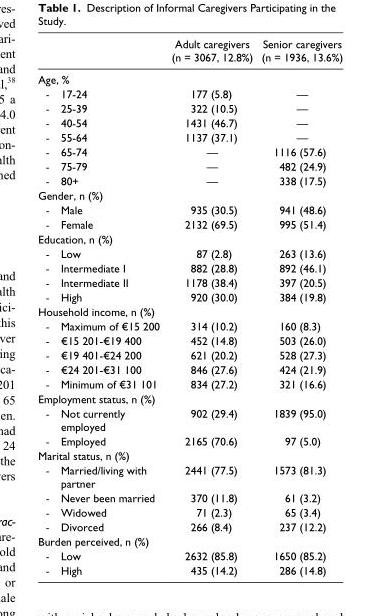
<table><thead><tr><td></td><td>Adult caregivers (n = 3067, 12.8%)</td><td>Senior caregivers (n = 1936, 13.6%)</td></tr></thead><tbody><tr><td colspan="3">Age, %</td></tr><tr><td>- 17-24</td><td>177 (5.8)</td><td>—</td></tr><tr><td>- 25-39</td><td>322 (10.5)</td><td>—</td></tr><tr><td>- 40-54</td><td>1431 (46.7)</td><td>—</td></tr><tr><td>- 55-64</td><td>1137 (37.1)</td><td>—</td></tr><tr><td>- 65-74</td><td>—</td><td>1116 (57.6)</td></tr><tr><td>- 75-79</td><td>—</td><td>482 (24.9)</td></tr><tr><td>- 80+</td><td>—</td><td>338 (17.5)</td></tr><tr><td colspan="3">Gender, n (%)</td></tr><tr><td>- Male</td><td>935 (30.5)</td><td>941 (48.6)</td></tr><tr><td>- Female</td><td>2132 (69.5)</td><td>995 (51.4)</td></tr><tr><td colspan="3">Education, n (%)</td></tr><tr><td>- Low</td><td>87 (2.8)</td><td>263 (13.6)</td></tr><tr><td>- Intermediate I</td><td>882 (28.8)</td><td>892 (46.1)</td></tr><tr><td>- Intermediate II</td><td>1178 (38.4)</td><td>397 (20.5)</td></tr><tr><td>- High</td><td>920 (30.0)</td><td>384 (19.8)</td></tr><tr><td colspan="3">Household income, n (%)</td></tr><tr><td>- Maximum of €15 200</td><td>314 (10.2)</td><td>160 (8.3)</td></tr><tr><td>- €15 201-€19 400</td><td>452 (14.8)</td><td>503 (26.0)</td></tr><tr><td>- €19 401-€24 200</td><td>621 (20.2)</td><td>528 (27.3)</td></tr><tr><td>- €24 201-€31 100</td><td>846 (27.6)</td><td>424 (21.9)</td></tr><tr><td>- Minimum of €31 101</td><td>834 (27.2)</td><td>321 (16.6)</td></tr><tr><td colspan="3">Employment status, n (%)</td></tr><tr><td>- Not currently employed</td><td>902 (29.4)</td><td>1839 (95.0)</td></tr><tr><td>- Employed</td><td>2165 (70.6)</td><td>97 (5.0)</td></tr><tr><td colspan="3">Marital status, n (%)</td></tr><tr><td>- Married/living with partner</td><td>2441 (77.5)</td><td>1573 (81.3)</td></tr><tr><td>- Never been married</td><td>370 (11.8)</td><td>61 (3.2)</td></tr><tr><td>- Widowed</td><td>71 (2.3)</td><td>65 (3.4)</td></tr><tr><td>- Divorced</td><td>266 (8.4)</td><td>237 (12.2)</td></tr><tr><td colspan="3">Burden perceived, n (%)</td></tr><tr><td>- Low</td><td>2632 (85.8)</td><td>1650 (85.2)</td></tr><tr><td>- High</td><td>435 (14.2)</td><td>286 (14.8)</td></tr></tbody></table>